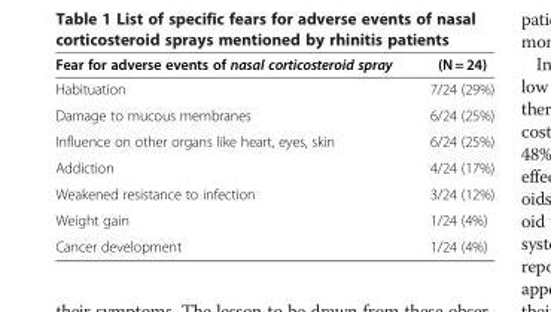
<table><thead><tr><td>Fear for adverse events of nasal corticosteroid spray</td><td>(N = 24)</td></tr></thead><tbody><tr><td>Habituation</td><td>7/24 (29%)</td></tr><tr><td>Damage to mucous membranes</td><td>6/24 (25%)</td></tr><tr><td>Influence on other organs like heart, eyes, skin</td><td>6/24 (25%)</td></tr><tr><td>Addiction</td><td>4/24 (17%)</td></tr><tr><td>Weakened resistance to infection</td><td>3/24 (12%)</td></tr><tr><td>Weight gain</td><td>1/24 (4%)</td></tr><tr><td>Cancer development</td><td>1/24 (4%)</td></tr></tbody></table>